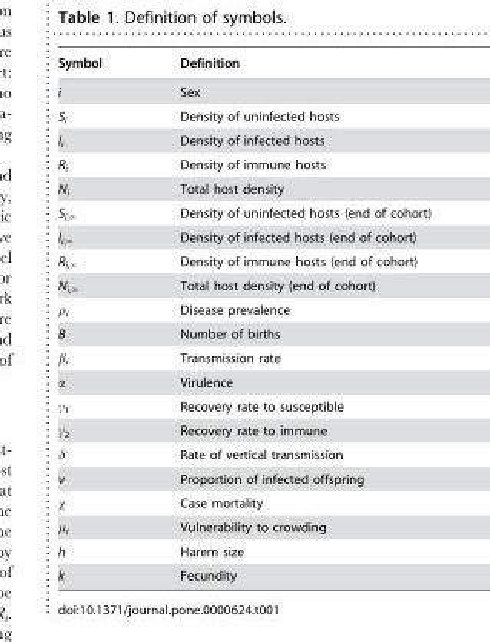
<table><thead><tr><td>Symbol</td><td>Definition</td></tr></thead><tbody><tr><td>i</td><td>Sex</td></tr><tr><td>S<sub>i</sub></td><td>Density of uninfected hosts</td></tr><tr><td>I<sub>i</sub></td><td>Density of infected hosts</td></tr><tr><td>R<sub>i</sub></td><td>Density of immune hosts</td></tr><tr><td>N<sub>i</sub></td><td>Total host density</td></tr><tr><td>Si,‘</td><td>Density of uninfected hosts (end of cohort)</td></tr><tr><td>Ii,‘</td><td>Density of infected hosts (end of cohort)</td></tr><tr><td>Ri,‘</td><td>Density of immune hosts (end of cohort)</td></tr><tr><td>Ni,‘</td><td>Total host density (end of cohort)</td></tr><tr><td>ρ<sub>i</sub></td><td>Disease prevalence</td></tr><tr><td>B</td><td>Number of births</td></tr><tr><td>β<sub>i</sub></td><td>Transmission rate</td></tr><tr><td>α</td><td>Virulence</td></tr><tr><td>γ<sub>1</sub></td><td>Recovery rate to susceptible</td></tr><tr><td>γ<sub>2</sub></td><td>Recovery rate to immune</td></tr><tr><td>δ</td><td>Rate of vertical transmission</td></tr><tr><td>v</td><td>Proportion of infected offspring</td></tr><tr><td>χ</td><td>Case mortality</td></tr><tr><td>μ<sub>i</sub></td><td>Vulnerability to crowding</td></tr><tr><td>h</td><td>Harem size</td></tr><tr><td>k</td><td>Fecundity</td></tr></tbody></table>